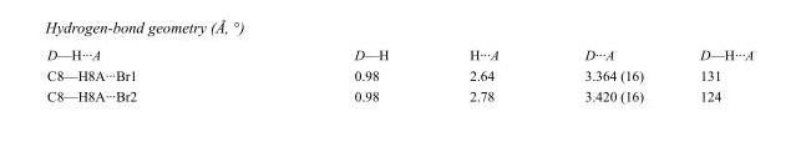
<table><tbody><tr><td>D—H···A</td><td>D—H</td><td>H···A</td><td>D···A</td><td>D—H···A</td></tr><tr><td>C8—H8A···Br1</td><td>0.98</td><td>2.64</td><td>3.364 (16)</td><td>131</td></tr><tr><td>C8—H8A···Br2</td><td>0.98</td><td>2.78</td><td>3.420 (16)</td><td>124</td></tr></tbody></table>